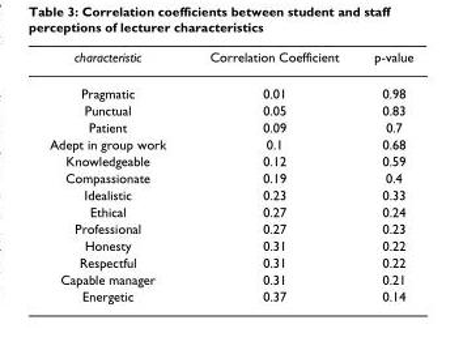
<table><thead><tr><td>characteristic</td><td>Correlation Coefficient</td><td>p-value</td></tr></thead><tbody><tr><td>Pragmatic</td><td>0.01</td><td>0.98</td></tr><tr><td>Punctual</td><td>0.05</td><td>0.83</td></tr><tr><td>Patient</td><td>0.09</td><td>0.7</td></tr><tr><td>Adept in group work</td><td>0.1</td><td>0.68</td></tr><tr><td>Knowledgeable</td><td>0.12</td><td>0.59</td></tr><tr><td>Compassionate</td><td>0.19</td><td>0.4</td></tr><tr><td>Idealistic</td><td>0.23</td><td>0.33</td></tr><tr><td>Ethical</td><td>0.27</td><td>0.24</td></tr><tr><td>Professional</td><td>0.27</td><td>0.23</td></tr><tr><td>Honesty</td><td>0.31</td><td>0.22</td></tr><tr><td>Respectful</td><td>0.31</td><td>0.22</td></tr><tr><td>Capable manager</td><td>0.31</td><td>0.21</td></tr><tr><td>Energetic</td><td>0.37</td><td>0.14</td></tr></tbody></table>